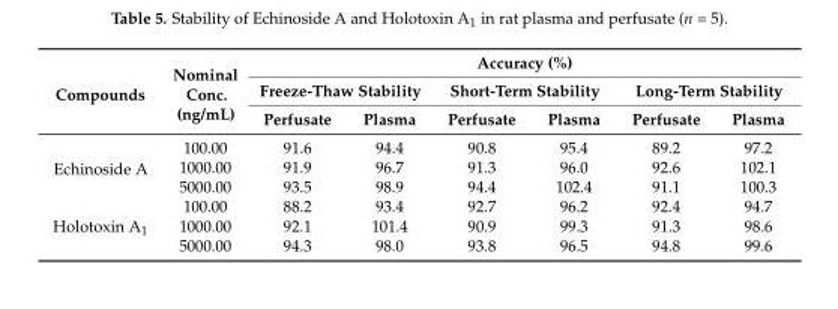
<table><thead><tr><td rowspan="3">Compounds</td><td rowspan="3">Nominal Conc. (ng/mL)</td><td colspan="6">Accuracy (%)</td></tr><tr><td colspan="2">Freeze-Thaw Stability</td><td colspan="2">Short-Term Stability</td><td colspan="2">Long-Term Stability</td></tr><tr><td>Perfusate</td><td>Plasma</td><td>Perfusate</td><td>Plasma</td><td>Perfusate</td><td>Plasma</td></tr></thead><tbody><tr><td rowspan="3">Echinoside A</td><td>100.00</td><td>91.6</td><td>94.4</td><td>90.8</td><td>95.4</td><td>89.2</td><td>97.2</td></tr><tr><td>1000.00</td><td>91.9</td><td>96.7</td><td>91.3</td><td>96.0</td><td>92.6</td><td>102.1</td></tr><tr><td>5000.00</td><td>93.5</td><td>98.9</td><td>94.4</td><td>102.4</td><td>91.1</td><td>100.3</td></tr><tr><td rowspan="3">Holotoxin A<sub>1</sub></td><td>100.00</td><td>88.2</td><td>93.4</td><td>92.7</td><td>96.2</td><td>92.4</td><td>94.7</td></tr><tr><td>1000.00</td><td>92.1</td><td>101.4</td><td>90.9</td><td>99.3</td><td>91.3</td><td>98.6</td></tr><tr><td>5000.00</td><td>94.3</td><td>98.0</td><td>93.8</td><td>96.5</td><td>94.8</td><td>99.6</td></tr></tbody></table>